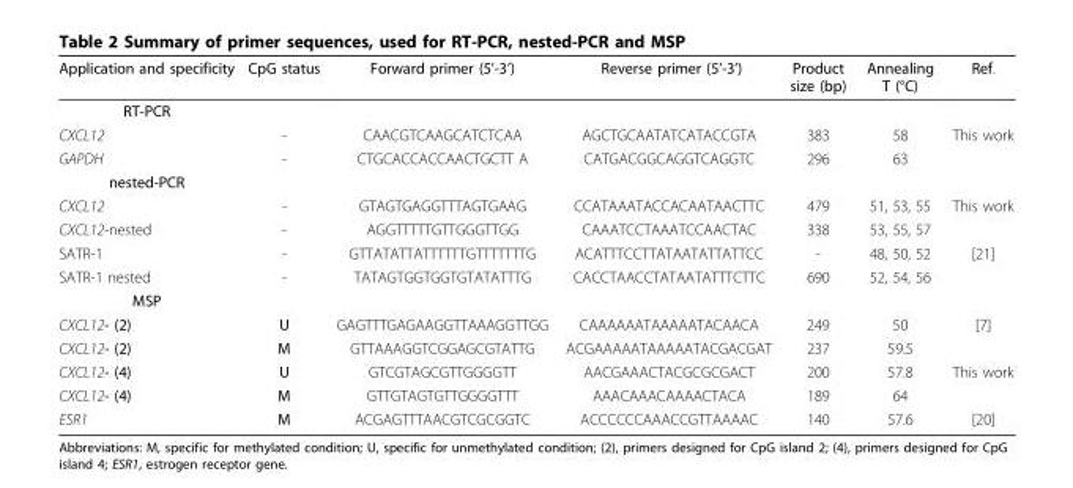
<table><thead><tr><td>Application and specificity</td><td>CpG status</td><td>Forward primer (5’-3’)</td><td>Reverse primer (5’-3’)</td><td>Product size (bp)</td><td>Annealing T (°C)</td><td>Ref.</td></tr></thead><tbody><tr><td colspan="7">RT-PCR</td></tr><tr><td>CXCL12</td><td>-</td><td>CAACGTCAAGCATCTCAA</td><td>AGCTGCAATATCATACCGTA</td><td>383</td><td>58</td><td>This work</td></tr><tr><td>GAPDH</td><td>-</td><td>CTGCACCACCAACTGCTT A</td><td>CATGACGGCAGGTCAGGTC</td><td>296</td><td>63</td><td></td></tr><tr><td colspan="7">nested-PCR</td></tr><tr><td>CXCL12</td><td>-</td><td>GTAGTGAGGTTTAGTGAAG</td><td>CCATAAATACCACAATAACTTC</td><td>479</td><td>51, 53, 55</td><td>This work</td></tr><tr><td>CXCL12-nested</td><td>-</td><td>AGGTTTTTGTTGGGTTGG</td><td>CAAATCCTAAATCCAACTAC</td><td>338</td><td>53, 55, 57</td><td></td></tr><tr><td>SATR-1</td><td>-</td><td>GTTATATTATTTTTTGTTTTTTTG</td><td>ACATTTCCTTATAATATTATTCC</td><td>-</td><td>48, 50, 52</td><td>[21]</td></tr><tr><td>SATR-1 nested</td><td>-</td><td>TATAGTGGTGGTGTATATTTG</td><td>CACCTAACCTATAATATTTCTTC</td><td>690</td><td>52, 54, 56</td><td></td></tr><tr><td colspan="7">MSP</td></tr><tr><td>CXCL12- (2)</td><td>U</td><td>GAGTTTGAGAAGGTTAAAGGTTGG</td><td>CAAAAAATAAAAATACAACA</td><td>249</td><td>50</td><td>[7]</td></tr><tr><td>CXCL12- (2)</td><td>M</td><td>GTTAAAGGTCGGAGCGTATTG</td><td>ACGAAAAATAAAAATACGACGAT</td><td>237</td><td>59.5</td><td></td></tr><tr><td>CXCL12- (4)</td><td>U</td><td>GTCGTAGCGTTGGGGTT</td><td>AACGAAACTACGCGCGACT</td><td>200</td><td>57.8</td><td>This work</td></tr><tr><td>CXCL12- (4)</td><td>M</td><td>GTTGTAGTGTTGGGGTTT</td><td>AAACAAACAAAACTACA</td><td>189</td><td>64</td><td></td></tr><tr><td>ESR1</td><td>M</td><td>ACGAGTTTAACGTCGCGGTC</td><td>ACCCCCCAAACCGTTAAAAC</td><td>140</td><td>57.6</td><td>[20]</td></tr></tbody></table>